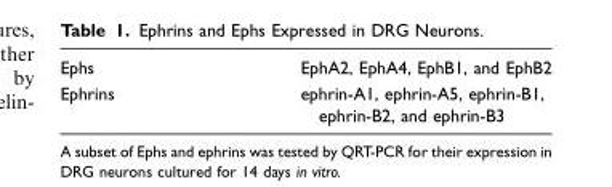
<table><tbody><tr><td>Ephs</td><td>EphA2, EphA4, EphB1, and EphB2</td></tr><tr><td>Ephrins</td><td>ephrin-A1, ephrin-A5, ephrin-B1, ephrin-B2, and ephrin-B3</td></tr></tbody></table>